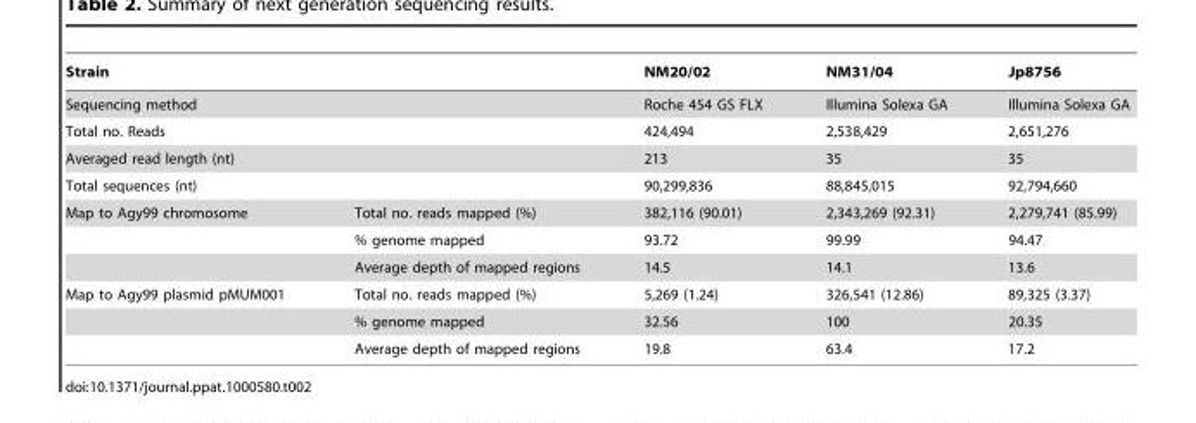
<table><thead><tr><td colspan="2">Strain</td><td>NM20/02</td><td>NM31/04</td><td>Jp8756</td></tr></thead><tbody><tr><td colspan="2">Sequencing method</td><td>Roche 454 GS FLX</td><td>Illumina Solexa GA</td><td>Illumina Solexa GA</td></tr><tr><td colspan="2">Total no. Reads</td><td>424,494</td><td>2,538,429</td><td>2,651,276</td></tr><tr><td colspan="2">Averaged read length (nt)</td><td>213</td><td>35</td><td>35</td></tr><tr><td colspan="2">Total sequences (nt)</td><td>90,299,836</td><td>88,845,015</td><td>92,794,660</td></tr><tr><td rowspan="3">Map to Agy99 chromosome</td><td>Total no. reads mapped (%)</td><td>382,116 (90.01)</td><td>2,343,269 (92.31)</td><td>2,279,741 (85.99)</td></tr><tr><td>% genome mapped</td><td>93.72</td><td>99.99</td><td>94.47</td></tr><tr><td>Average depth of mapped regions</td><td>14.5</td><td>14.1</td><td>13.6</td></tr><tr><td rowspan="3">Map to Agy99 plasmid pMUM001</td><td>Total no. reads mapped (%)</td><td>5,269 (1.24)</td><td>326,541 (12.86)</td><td>89,325 (3.37)</td></tr><tr><td>% genome mapped</td><td>32.56</td><td>100</td><td>20.35</td></tr><tr><td>Average depth of mapped regions</td><td>19.8</td><td>63.4</td><td>17.2</td></tr></tbody></table>